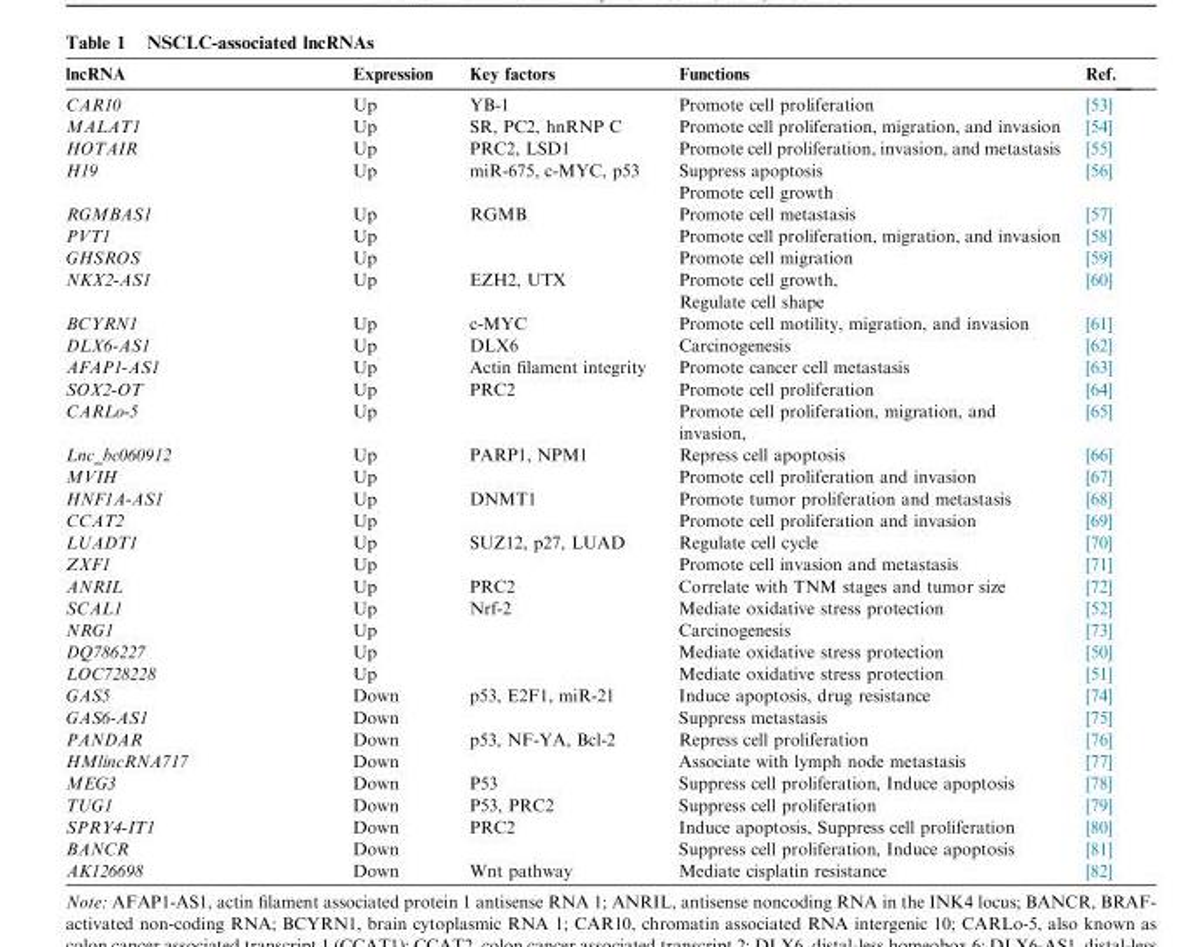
<table><thead><tr><td>lncRNA</td><td>Expression</td><td>Key factors</td><td>Functions</td><td>Ref.</td></tr></thead><tbody><tr><td>CAR10</td><td>Up</td><td>YB-1</td><td>Promote cell proliferation</td><td>[53]</td></tr><tr><td>MALAT1</td><td>Up</td><td>SR, PC2, hnRNP C</td><td>Promote cell proliferation, migration, and invasion</td><td>[54]</td></tr><tr><td>HOTAIR</td><td>Up</td><td>PRC2, LSD1</td><td>Promote cell proliferation, invasion, and metastasis</td><td>[55]</td></tr><tr><td>H19</td><td>Up</td><td>miR-675, c-MYC, p53</td><td>Suppress apoptosis Promote cell growth</td><td>[56]</td></tr><tr><td>RGMBAS1</td><td>Up</td><td>RGMB</td><td>Promote cell metastasis</td><td>[57]</td></tr><tr><td>PVT1</td><td>Up</td><td></td><td>Promote cell proliferation, migration, and invasion</td><td>[58]</td></tr><tr><td>GHSROS</td><td>Up</td><td></td><td>Promote cell migration</td><td>[59]</td></tr><tr><td>NKX2-AS1</td><td>Up</td><td>EZH2, UTX</td><td>Promote cell growth, Regulate cell shape</td><td>[60]</td></tr><tr><td>BCYRN1</td><td>Up</td><td>c-MYC</td><td>Promote cell motility, migration, and invasion</td><td>[61]</td></tr><tr><td>DLX6-AS1</td><td>Up</td><td>DLX6</td><td>Carcinogenesis</td><td>[62]</td></tr><tr><td>AFAP1-AS1</td><td>Up</td><td>Actin filament integrity</td><td>Promote cancer cell metastasis</td><td>[63]</td></tr><tr><td>SOX2-OT</td><td>Up</td><td>PRC2</td><td>Promote cell proliferation</td><td>[64]</td></tr><tr><td>CARLo-5</td><td>Up</td><td></td><td>Promote cell proliferation, migration, and invasion,</td><td>[65]</td></tr><tr><td>Lnc_bc060912</td><td>Up</td><td>PARP1, NPM1</td><td>Repress cell apoptosis</td><td>[66]</td></tr><tr><td>MVIH</td><td>Up</td><td></td><td>Promote cell proliferation and invasion</td><td>[67]</td></tr><tr><td>HNF1A-AS1</td><td>Up</td><td>DNMT1</td><td>Promote tumor proliferation and metastasis</td><td>[68]</td></tr><tr><td>CCAT2</td><td>Up</td><td></td><td>Promote cell proliferation and invasion</td><td>[69]</td></tr><tr><td>LUADT1</td><td>Up</td><td>SUZ12, p27, LUAD</td><td>Regulate cell cycle</td><td>[70]</td></tr><tr><td>ZXF1</td><td>Up</td><td></td><td>Promote cell invasion and metastasis</td><td>[71]</td></tr><tr><td>ANRIL</td><td>Up</td><td>PRC2</td><td>Correlate with TNM stages and tumor size</td><td>[72]</td></tr><tr><td>SCAL1</td><td>Up</td><td>Nrf-2</td><td>Mediate oxidative stress protection</td><td>[52]</td></tr><tr><td>NRG1</td><td>Up</td><td></td><td>Carcinogenesis</td><td>[73]</td></tr><tr><td>DQ786227</td><td>Up</td><td></td><td>Mediate oxidative stress protection</td><td>[50]</td></tr><tr><td>LOC728228</td><td>Up</td><td></td><td>Mediate oxidative stress protection</td><td>[51]</td></tr><tr><td>GAS5</td><td>Down</td><td>p53, E2F1, miR-21</td><td>Induce apoptosis, drug resistance</td><td>[74]</td></tr><tr><td>GAS6-AS1</td><td>Down</td><td></td><td>Suppress metastasis</td><td>[75]</td></tr><tr><td>PANDAR</td><td>Down</td><td>p53, NF-YA, Bcl-2</td><td>Repress cell proliferation</td><td>[76]</td></tr><tr><td>HMlincRNA717</td><td>Down</td><td></td><td>Associate with lymph node metastasis</td><td>[77]</td></tr><tr><td>MEG3</td><td>Down</td><td>P53</td><td>Suppress cell proliferation, Induce apoptosis</td><td>[78]</td></tr><tr><td>TUG1</td><td>Down</td><td>P53, PRC2</td><td>Suppress cell proliferation</td><td>[79]</td></tr><tr><td>SPRY4-IT1</td><td>Down</td><td>PRC2</td><td>Induce apoptosis, Suppress cell proliferation</td><td>[80]</td></tr><tr><td>BANCR</td><td>Down</td><td></td><td>Suppress cell proliferation, Induce apoptosis</td><td>[81]</td></tr><tr><td>AK126698</td><td>Down</td><td>Wnt pathway</td><td>Mediate cisplatin resistance</td><td>[82]</td></tr></tbody></table>